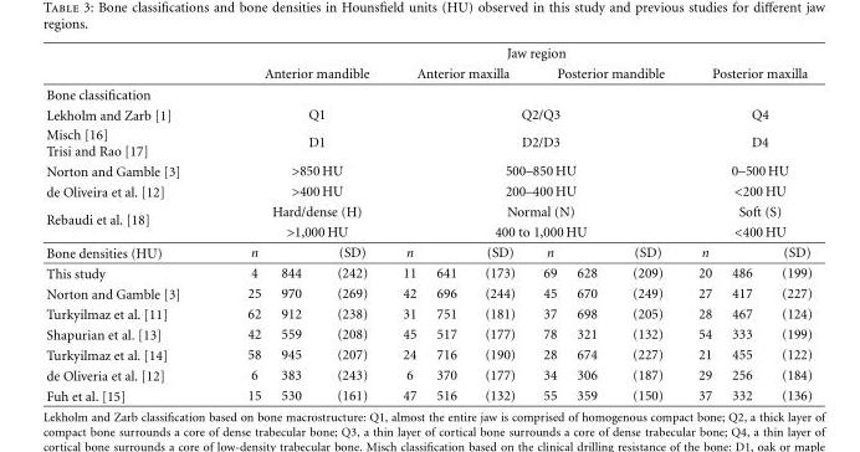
<table><thead><tr><td rowspan="3">Bone classification</td><td colspan="12">Jaw region</td></tr><tr><td colspan="3">Anterior mandible</td><td colspan="3">Anterior maxilla</td><td colspan="3">Posterior mandible</td><td colspan="3">Posterior maxilla</td></tr><tr><td></td><td></td><td></td><td></td><td></td><td></td><td></td><td></td><td></td><td></td><td></td><td></td></tr></thead><tbody><tr><td>Lekholm and Zarb [1]</td><td colspan="3">Q1</td><td colspan="6">Q2/Q3</td><td colspan="3">Q4</td></tr><tr><td>Misch [16] Trisi and Rao [17]</td><td colspan="3">D1</td><td colspan="6">D2/D3</td><td colspan="3">D4</td></tr><tr><td>Norton and Gamble [3]</td><td colspan="3">&gt;850 HU</td><td colspan="6">500–850 HU</td><td colspan="3">0–500 HU</td></tr><tr><td>de Oliveira et al. [12]</td><td colspan="3">&gt;400 HU</td><td colspan="6">200–400 HU</td><td colspan="3">&lt;200 HU</td></tr><tr><td rowspan="2">Rebaudi et al. [18]</td><td colspan="3">Hard/dense (H)</td><td colspan="6">Normal (N)</td><td colspan="3">Soft (S)</td></tr><tr><td colspan="3">&gt;1,000 HU</td><td colspan="6">400 to 1,000 HU</td><td colspan="3">&lt;400 HU</td></tr><tr><td>Bone densities (HU)</td><td>n</td><td></td><td>(SD)</td><td>n</td><td></td><td>(SD)</td><td>n</td><td></td><td>(SD)</td><td>n</td><td></td><td>(SD)</td></tr><tr><td>This study</td><td>4</td><td>844</td><td>(242)</td><td>11</td><td>641</td><td>(173)</td><td>69</td><td>628</td><td>(209)</td><td>20</td><td>486</td><td>(199)</td></tr><tr><td>Norton and Gamble [3]</td><td>25</td><td>970</td><td>(269)</td><td>42</td><td>696</td><td>(244)</td><td>45</td><td>670</td><td>(249)</td><td>27</td><td>417</td><td>(227)</td></tr><tr><td>Turkyilmaz et al. [11]</td><td>62</td><td>912</td><td>(238)</td><td>31</td><td>751</td><td>(181)</td><td>37</td><td>698</td><td>(205)</td><td>28</td><td>467</td><td>(124)</td></tr><tr><td>Shapurian et al. [13]</td><td>42</td><td>559</td><td>(208)</td><td>45</td><td>517</td><td>(177)</td><td>78</td><td>321</td><td>(132)</td><td>54</td><td>333</td><td>(199)</td></tr><tr><td>Turkyilmaz et al. [14]</td><td>58</td><td>945</td><td>(207)</td><td>24</td><td>716</td><td>(190)</td><td>28</td><td>674</td><td>(227)</td><td>21</td><td>455</td><td>(122)</td></tr><tr><td>de Oliveria et al. [12]</td><td>6</td><td>383</td><td>(243)</td><td>6</td><td>370</td><td>(177)</td><td>34</td><td>306</td><td>(187)</td><td>29</td><td>256</td><td>(184)</td></tr><tr><td>Fuh et al. [15]</td><td>15</td><td>530</td><td>(161)</td><td>47</td><td>516</td><td>(132)</td><td>55</td><td>359</td><td>(150)</td><td>37</td><td>332</td><td>(136)</td></tr></tbody></table>